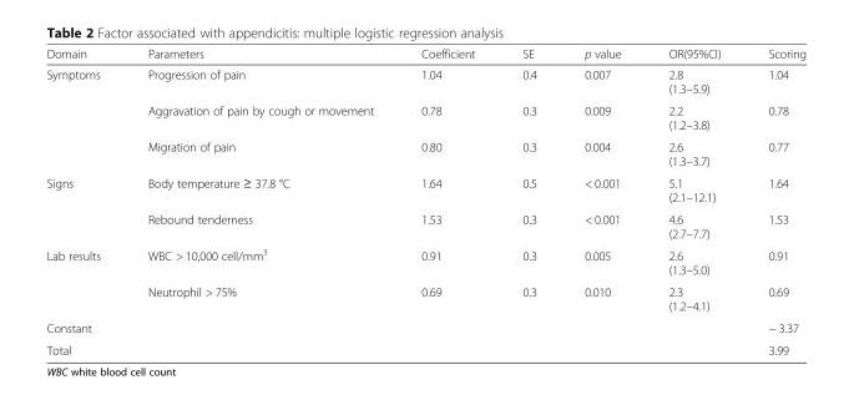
<table><thead><tr><td>Domain</td><td>Parameters</td><td>Coefficient</td><td>SE</td><td>p value</td><td>OR(95%CI)</td><td>Scoring</td></tr></thead><tbody><tr><td rowspan="3">Symptoms</td><td>Progression of pain</td><td>1.04</td><td>0.4</td><td>0.007</td><td>2.8 (1.3–5.9)</td><td>1.04</td></tr><tr><td>Aggravation of pain by cough or movement</td><td>0.78</td><td>0.3</td><td>0.009</td><td>2.2 (1.2–3.8)</td><td>0.78</td></tr><tr><td>Migration of pain</td><td>0.80</td><td>0.3</td><td>0.004</td><td>2.6 (1.3–3.7)</td><td>0.77</td></tr><tr><td rowspan="2">Signs</td><td>Body temperature ≥ 37.8 °C</td><td>1.64</td><td>0.5</td><td>&lt; 0.001</td><td>5.1 (2.1–12.1)</td><td>1.64</td></tr><tr><td>Rebound tenderness</td><td>1.53</td><td>0.3</td><td>&lt; 0.001</td><td>4.6 (2.7–7.7)</td><td>1.53</td></tr><tr><td rowspan="2">Lab results</td><td>WBC &gt; 10,000 cell/mm<sup>3</sup></td><td>0.91</td><td>0.3</td><td>0.005</td><td>2.6 (1.3–5.0)</td><td>0.91</td></tr><tr><td>Neutrophil &gt; 75%</td><td>0.69</td><td>0.3</td><td>0.010</td><td>2.3 (1.2–4.1)</td><td>0.69</td></tr><tr><td colspan="6">Constant</td><td>− 3.37</td></tr><tr><td colspan="6">Total</td><td>3.99</td></tr></tbody></table>